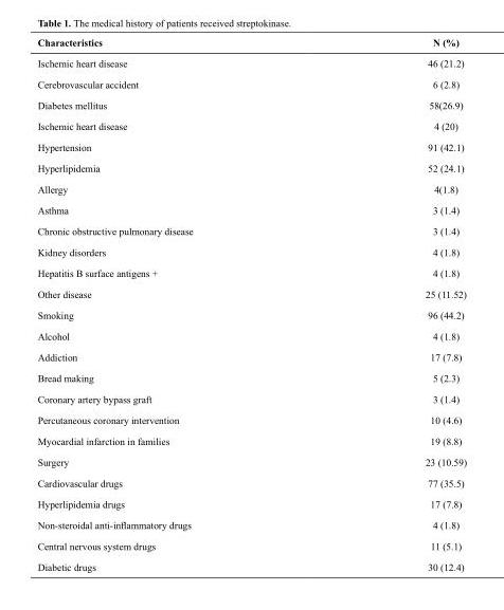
<table><thead><tr><td>Characteristics</td><td>N (%)</td></tr></thead><tbody><tr><td>Ischemic heart disease</td><td>46 (21.2)</td></tr><tr><td>Cerebrovascular accident</td><td>6 (2.8)</td></tr><tr><td>Diabetes mellitus</td><td>58(26.9)</td></tr><tr><td>Ischemic heart disease</td><td>4 (20)</td></tr><tr><td>Hypertension</td><td>91 (42.1)</td></tr><tr><td>Hyperlipidemia Allergy Asthma Chronic obstructive pulmonary disease Kidney disorders Hepatitis B surface antigens +</td><td>52 (24.1) 4(1.8) 3 (1.4) 3 (1.4) 4 (1.8) 4 (1.8)</td></tr><tr><td>Other disease</td><td>25 (11.52)</td></tr><tr><td>Smoking</td><td>96 (44.2)</td></tr><tr><td>Alcohol</td><td>4 (1.8)</td></tr><tr><td>Addiction Bread making Coronary artery bypass graft Percutaneous coronary intervention</td><td>17 (7.8) 5 (2.3) 3 (1.4) 10 (4.6)</td></tr><tr><td>Myocardial infarction in families</td><td>19 (8.8)</td></tr><tr><td>Surgery</td><td>23 (10.59)</td></tr><tr><td>Cardiovascular drugs</td><td>77 (35.5)</td></tr><tr><td>Hyperlipidemia drugs</td><td>17 (7.8)</td></tr><tr><td>Non-steroidal anti-inflammatory drugs</td><td>4 (1.8)</td></tr><tr><td>Central nervous system drugs</td><td>11 (5.1)</td></tr><tr><td>Diabetic drugs</td><td>30 (12.4)</td></tr></tbody></table>